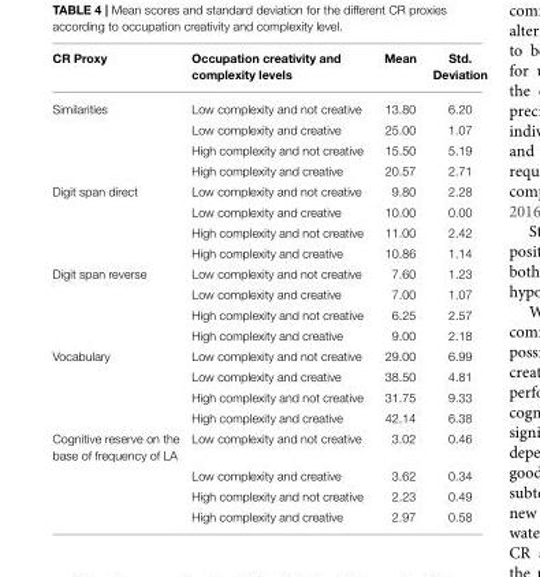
<table><thead><tr><td>CR Proxy</td><td>Occupation creativity and complexity levels</td><td>Mean</td><td>Std. Deviation</td></tr></thead><tbody><tr><td rowspan="4">Similarities</td><td>Low complexity and not creative</td><td>13.80</td><td>6.20</td></tr><tr><td>Low complexity and creative</td><td>25.00</td><td>1.07</td></tr><tr><td>High complexity and not creative</td><td>15.50</td><td>5.19</td></tr><tr><td>High complexity and creative</td><td>20.57</td><td>2.71</td></tr><tr><td rowspan="4">Digit span direct</td><td>Low complexity and not creative</td><td>9.80</td><td>2.28</td></tr><tr><td>Low complexity and creative</td><td>10.00</td><td>0.00</td></tr><tr><td>High complexity and not creative</td><td>11.00</td><td>2.42</td></tr><tr><td>High complexity and creative</td><td>10.86</td><td>1.14</td></tr><tr><td rowspan="4">Digit span reverse</td><td>Low complexity and not creative</td><td>7.60</td><td>1.23</td></tr><tr><td>Low complexity and creative</td><td>7.00</td><td>1.07</td></tr><tr><td>High complexity and not creative</td><td>6.25</td><td>2.57</td></tr><tr><td>High complexity and creative</td><td>9.00</td><td>2.18</td></tr><tr><td rowspan="4">Vocabulary</td><td>Low complexity and not creative</td><td>29.00</td><td>6.99</td></tr><tr><td>Low complexity and creative</td><td>38.50</td><td>4.81</td></tr><tr><td>High complexity and not creative</td><td>31.75</td><td>9.33</td></tr><tr><td>High complexity and creative</td><td>42.14</td><td>6.38</td></tr><tr><td rowspan="4">Cognitive reserve on the base of frequency of LA</td><td>Low complexity and not creative</td><td>3.02</td><td>0.46</td></tr><tr><td>Low complexity and creative</td><td>3.62</td><td>0.34</td></tr><tr><td>High complexity and not creative</td><td>2.23</td><td>0.49</td></tr><tr><td>High complexity and creative</td><td>2.97</td><td>0.58</td></tr></tbody></table>